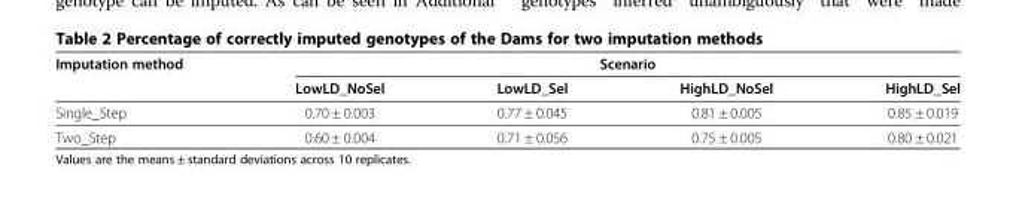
<table><thead><tr><td rowspan="2">Imputation method</td><td colspan="4">Scenario</td></tr><tr><td>LowLD_NoSel</td><td>LowLD_Sel</td><td>HighLD_NoSel</td><td>HighLD_Sel</td></tr></thead><tbody><tr><td>Single_Step</td><td>0.70 ± 0.003</td><td>0.77 ± 0.045</td><td>0.81 ± 0.005</td><td>0.85 ± 0.019</td></tr><tr><td>Two_Step</td><td>0.60 ± 0.004</td><td>0.71 ± 0.056</td><td>0.75 ± 0.005</td><td>0.80 ± 0.021</td></tr></tbody></table>